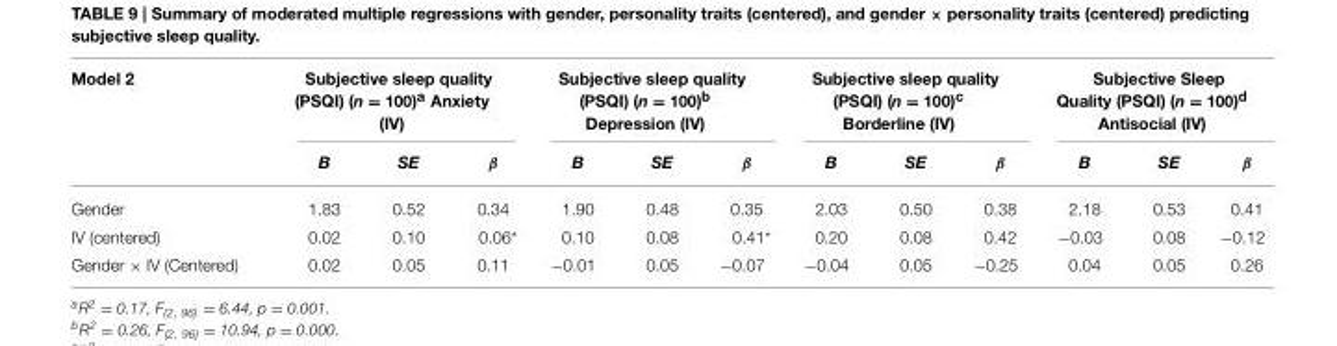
<table><thead><tr><td rowspan="2">Model 2</td><td colspan="3">Subjective sleep quality (PSQI) (n = 100)<sup>a</sup> Anxiety (IV)</td><td colspan="3">Subjective sleep quality (PSQI) (n = 100)<sup>b</sup> Depression (IV)</td><td colspan="3">Subjective sleep quality (PSQI) (n = 100)<sup>c</sup> Borderline (IV)</td><td colspan="3">Subjective Sleep Quality (PSQI) (n = 100)<sup>d</sup> Antisocial (IV)</td></tr><tr><td>B</td><td>SE</td><td>β</td><td>B</td><td>SE</td><td>β</td><td>B</td><td>SE</td><td>β</td><td>B</td><td>SE</td><td>β</td></tr></thead><tbody><tr><td>Gender</td><td>1.83</td><td>0.52</td><td>0.34</td><td>1.90</td><td>0.48</td><td>0.35</td><td>2.03</td><td>0.50</td><td>0.38</td><td>2.18</td><td>0.53</td><td>0.41</td></tr><tr><td>IV (centered)</td><td>0.02</td><td>0.10</td><td>0.06*</td><td>0.10</td><td>0.08</td><td>0.41*</td><td>0.20</td><td>0.08</td><td>0.42</td><td>−0.03</td><td>0.08</td><td>−0.12</td></tr><tr><td>Gender × IV (Centered)</td><td>0.02</td><td>0.05</td><td>0.11</td><td>−0.01</td><td>0.05</td><td>−0.07</td><td>−0.04</td><td>0.05</td><td>−0.25</td><td>0.04</td><td>0.05</td><td>0.26</td></tr></tbody></table>